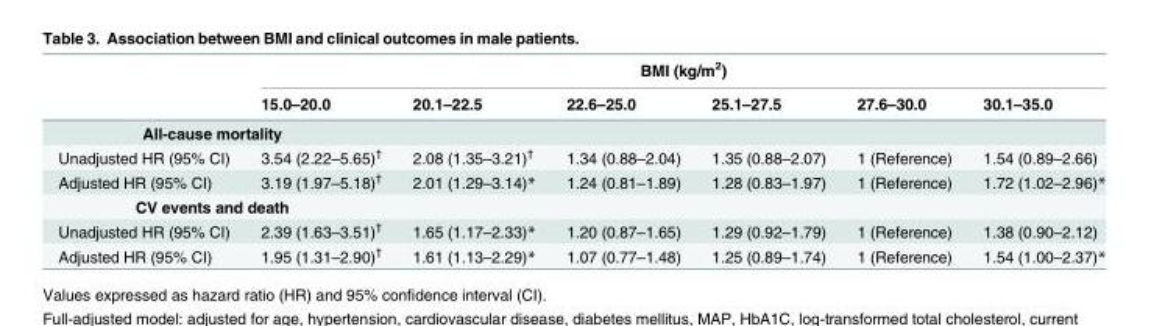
<table><thead><tr><td rowspan="2"></td><td colspan="6">BMI (kg/m<sup>2</sup>)</td></tr><tr><td>15.0–20.0</td><td>20.1–22.5</td><td>22.6–25.0</td><td>25.1–27.5</td><td>27.6–30.0</td><td>30.1–35.0</td></tr></thead><tbody><tr><td colspan="7">All-cause mortality</td></tr><tr><td>Unadjusted HR (95% CI)</td><td>3.54 (2.22–5.65)<sup>†</sup></td><td>2.08 (1.35–3.21)<sup>†</sup></td><td>1.34 (0.88–2.04)</td><td>1.35 (0.88–2.07)</td><td>1 (Reference)</td><td>1.54 (0.89–2.66)</td></tr><tr><td>Adjusted HR (95% CI)</td><td>3.19 (1.97–5.18)<sup>†</sup></td><td>2.01 (1.29–3.14)*</td><td>1.24 (0.81–1.89)</td><td>1.28 (0.83–1.97)</td><td>1 (Reference)</td><td>1.72 (1.02–2.96)*</td></tr><tr><td colspan="7">CV events and death</td></tr><tr><td>Unadjusted HR (95% CI)</td><td>2.39 (1.63–3.51)<sup>†</sup></td><td>1.65 (1.17–2.33)*</td><td>1.20 (0.87–1.65)</td><td>1.29 (0.92–1.79)</td><td>1 (Reference)</td><td>1.38 (0.90–2.12)</td></tr><tr><td>Adjusted HR (95% CI)</td><td>1.95 (1.31–2.90)<sup>†</sup></td><td>1.61 (1.13–2.29)*</td><td>1.07 (0.77–1.48)</td><td>1.25 (0.89–1.74)</td><td>1 (Reference)</td><td>1.54 (1.00–2.37)*</td></tr></tbody></table>